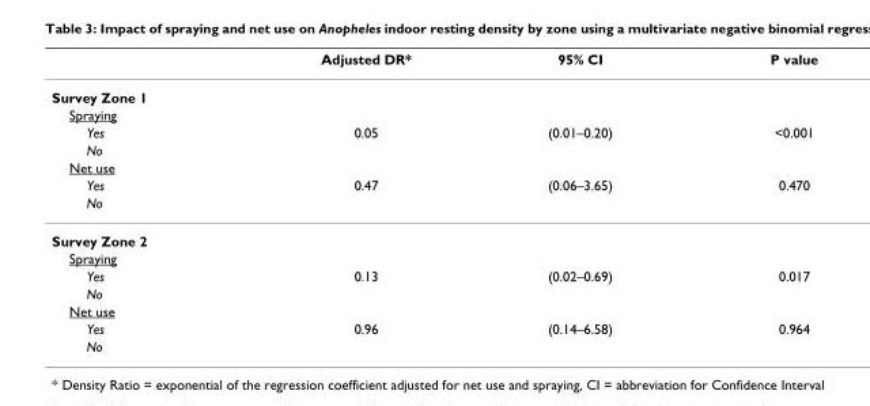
<table><thead><tr><td></td><td>Adjusted DR*</td><td>95% CI</td><td>P value</td></tr></thead><tbody><tr><td colspan="4">Survey Zone 1</td></tr><tr><td colspan="4">Spraying</td></tr><tr><td>Yes</td><td>0.05</td><td>(0.01–0.20)</td><td>&lt;0.001</td></tr><tr><td colspan="4">No</td></tr><tr><td colspan="4">Net use</td></tr><tr><td>Yes</td><td>0.47</td><td>(0.06–3.65)</td><td>0.470</td></tr><tr><td colspan="4">No</td></tr><tr><td colspan="4">Survey Zone 2</td></tr><tr><td colspan="4">Spraying</td></tr><tr><td>Yes</td><td>0.13</td><td>(0.02–0.69)</td><td>0.017</td></tr><tr><td colspan="4">No</td></tr><tr><td colspan="4">Net use</td></tr><tr><td>Yes</td><td>0.96</td><td>(0.14–6.58)</td><td>0.964</td></tr><tr><td>No</td><td></td><td></td><td></td></tr></tbody></table>